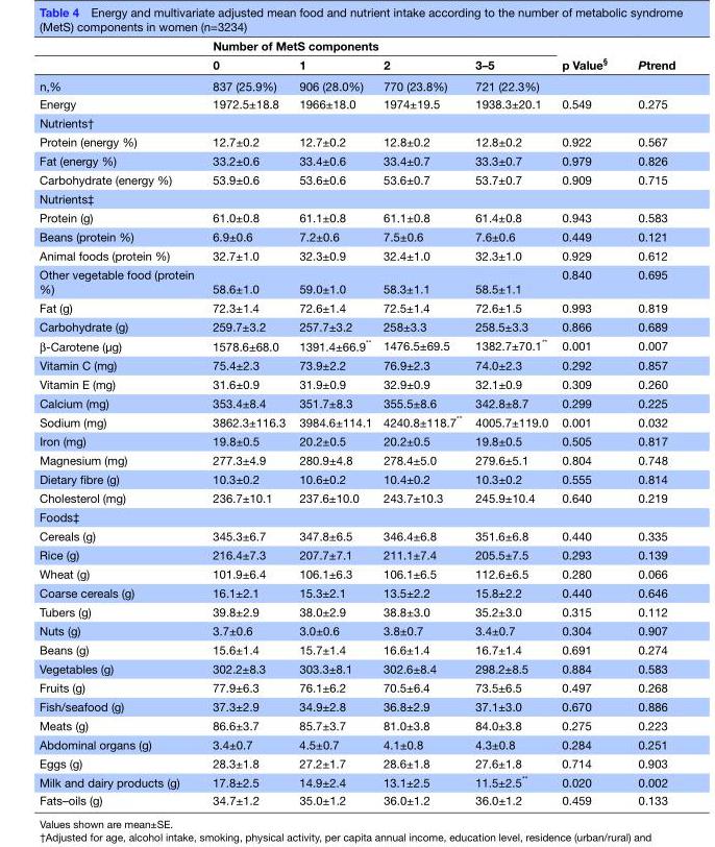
<table><thead><tr><td rowspan="2"></td><td colspan="4">Number of MetS components</td><td rowspan="2">p Value<sup>§</sup></td><td rowspan="2">Ptrend</td></tr><tr><td>0</td><td>1</td><td>2</td><td>3–5</td></tr></thead><tbody><tr><td>n,%</td><td>837 (25.9%)</td><td>906 (28.0%)</td><td>770 (23.8%)</td><td>721 (22.3%)</td><td></td><td></td></tr><tr><td>Energy</td><td>1972.5±18.8</td><td>1966±18.0</td><td>1974±19.5</td><td>1938.3±20.1</td><td>0.549</td><td>0.275</td></tr><tr><td colspan="7">Nutrients†</td></tr><tr><td>Protein (energy %)</td><td>12.7±0.2</td><td>12.7±0.2</td><td>12.8±0.2</td><td>12.8±0.2</td><td>0.922</td><td>0.567</td></tr><tr><td>Fat (energy %)</td><td>33.2±0.6</td><td>33.4±0.6</td><td>33.4±0.7</td><td>33.3±0.7</td><td>0.979</td><td>0.826</td></tr><tr><td>Carbohydrate (energy %)</td><td>53.9±0.6</td><td>53.6±0.6</td><td>53.6±0.7</td><td>53.7±0.7</td><td>0.909</td><td>0.715</td></tr><tr><td colspan="7">Nutrients‡</td></tr><tr><td>Protein (g)</td><td>61.0±0.8</td><td>61.1±0.8</td><td>61.1±0.8</td><td>61.4±0.8</td><td>0.943</td><td>0.583</td></tr><tr><td>Beans (protein %)</td><td>6.9±0.6</td><td>7.2±0.6</td><td>7.5±0.6</td><td>7.6±0.6</td><td>0.449</td><td>0.121</td></tr><tr><td>Animal foods (protein %)</td><td>32.7±1.0</td><td>32.3±0.9</td><td>32.4±1.0</td><td>32.3±1.0</td><td>0.929</td><td>0.612</td></tr><tr><td>Other vegetable food (protein %)</td><td>58.6±1.0</td><td>59.0±1.0</td><td>58.3±1.1</td><td>58.5±1.1</td><td>0.840</td><td>0.695</td></tr><tr><td>Fat (g)</td><td>72.3±1.4</td><td>72.6±1.4</td><td>72.5±1.4</td><td>72.6±1.5</td><td>0.993</td><td>0.819</td></tr><tr><td>Carbohydrate (g)</td><td>259.7±3.2</td><td>257.7±3.2</td><td>258±3.3</td><td>258.5±3.3</td><td>0.866</td><td>0.689</td></tr><tr><td>β-Carotene (μg)</td><td>1578.6±68.0</td><td>1391.4±66.9**</td><td>1476.5±69.5</td><td>1382.7±70.1**</td><td>0.001</td><td>0.007</td></tr><tr><td>Vitamin C (mg)</td><td>75.4±2.3</td><td>73.9±2.2</td><td>76.9±2.3</td><td>74.0±2.3</td><td>0.292</td><td>0.857</td></tr><tr><td>Vitamin E (mg)</td><td>31.6±0.9</td><td>31.9±0.9</td><td>32.9±0.9</td><td>32.1±0.9</td><td>0.309</td><td>0.260</td></tr><tr><td>Calcium (mg)</td><td>353.4±8.4</td><td>351.7±8.3</td><td>355.5±8.6</td><td>342.8±8.7</td><td>0.299</td><td>0.225</td></tr><tr><td>Sodium (mg)</td><td>3862.3±116.3</td><td>3984.6±114.1</td><td>4240.8±118.7**</td><td>4005.7±119.0</td><td>0.001</td><td>0.032</td></tr><tr><td>Iron (mg)</td><td>19.8±0.5</td><td>20.2±0.5</td><td>20.2±0.5</td><td>19.8±0.5</td><td>0.505</td><td>0.817</td></tr><tr><td>Magnesium (mg)</td><td>277.3±4.9</td><td>280.9±4.8</td><td>278.4±5.0</td><td>279.6±5.1</td><td>0.804</td><td>0.748</td></tr><tr><td>Dietary fibre (g)</td><td>10.3±0.2</td><td>10.6±0.2</td><td>10.4±0.2</td><td>10.3±0.2</td><td>0.555</td><td>0.814</td></tr><tr><td>Cholesterol (mg)</td><td>236.7±10.1</td><td>237.6±10.0</td><td>243.7±10.3</td><td>245.9±10.4</td><td>0.640</td><td>0.219</td></tr><tr><td colspan="7">Foods‡</td></tr><tr><td>Cereals (g)</td><td>345.3±6.7</td><td>347.8±6.5</td><td>346.4±6.8</td><td>351.6±6.8</td><td>0.440</td><td>0.335</td></tr><tr><td>Rice (g)</td><td>216.4±7.3</td><td>207.7±7.1</td><td>211.1±7.4</td><td>205.5±7.5</td><td>0.293</td><td>0.139</td></tr><tr><td>Wheat (g)</td><td>101.9±6.4</td><td>106.1±6.3</td><td>106.1±6.5</td><td>112.6±6.5</td><td>0.280</td><td>0.066</td></tr><tr><td>Coarse cereals (g)</td><td>16.1±2.1</td><td>15.3±2.1</td><td>13.5±2.2</td><td>15.8±2.2</td><td>0.440</td><td>0.646</td></tr><tr><td>Tubers (g)</td><td>39.8±2.9</td><td>38.0±2.9</td><td>38.8±3.0</td><td>35.2±3.0</td><td>0.315</td><td>0.112</td></tr><tr><td>Nuts (g)</td><td>3.7±0.6</td><td>3.0±0.6</td><td>3.8±0.7</td><td>3.4±0.7</td><td>0.304</td><td>0.907</td></tr><tr><td>Beans (g)</td><td>15.6±1.4</td><td>15.7±1.4</td><td>16.6±1.4</td><td>16.7±1.4</td><td>0.691</td><td>0.274</td></tr><tr><td>Vegetables (g)</td><td>302.2±8.3</td><td>303.3±8.1</td><td>302.6±8.4</td><td>298.2±8.5</td><td>0.884</td><td>0.583</td></tr><tr><td>Fruits (g)</td><td>77.9±6.3</td><td>76.1±6.2</td><td>70.5±6.4</td><td>73.5±6.5</td><td>0.497</td><td>0.268</td></tr><tr><td>Fish/seafood (g)</td><td>37.3±2.9</td><td>34.9±2.8</td><td>36.8±2.9</td><td>37.1±3.0</td><td>0.670</td><td>0.886</td></tr><tr><td>Meats (g)</td><td>86.6±3.7</td><td>85.7±3.7</td><td>81.0±3.8</td><td>84.0±3.8</td><td>0.275</td><td>0.223</td></tr><tr><td>Abdominal organs (g)</td><td>3.4±0.7</td><td>4.5±0.7</td><td>4.1±0.8</td><td>4.3±0.8</td><td>0.284</td><td>0.251</td></tr><tr><td>Eggs (g)</td><td>28.3±1.8</td><td>27.2±1.7</td><td>28.6±1.8</td><td>27.6±1.8</td><td>0.714</td><td>0.903</td></tr><tr><td>Milk and dairy products (g)</td><td>17.8±2.5</td><td>14.9±2.4</td><td>13.1±2.5</td><td>11.5±2.5**</td><td>0.020</td><td>0.002</td></tr><tr><td>Fats–oils (g)</td><td>34.7±1.2</td><td>35.0±1.2</td><td>36.0±1.2</td><td>36.0±1.2</td><td>0.459</td><td>0.133</td></tr></tbody></table>